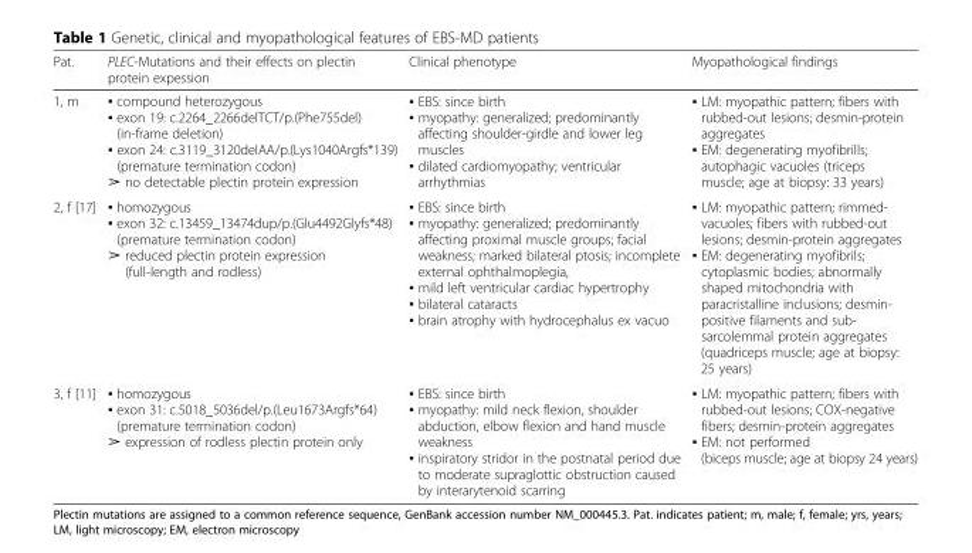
<table><thead><tr><td>Pat.</td><td>PLEC-Mutations and their effects on plectin protein expession</td><td>Clinical phenotype</td><td>Myopathological findings</td></tr></thead><tbody><tr><td>1, m</td><td>▪ compound heterozygous ▪ exon 19: c.2264_2266delTCT/p.(Phe755del) (in-frame deletion) ▪ exon 24: c.3119_3120delAA/p.(Lys1040Argfs*139) (premature termination codon) ➢ no detectable plectin protein expression</td><td>▪ EBS: since birth ▪ myopathy: generalized; predominantly affecting shoulder-girdle and lower leg muscles ▪ dilated cardiomyopathy; ventricular arrhythmias</td><td>▪ LM: myopathic pattern; fibers with rubbed-out lesions; desmin-protein aggregates ▪ EM: degenerating myofibrills; autophagic vacuoles (triceps muscle; age at biopsy: 33 years)</td></tr><tr><td>2, f [17]</td><td>▪ homozygous ▪ exon 32: c.13459_13474dup/p.(Glu4492Glyfs*48) (premature termination codon) ➢ reduced plectin protein expression (full-length and rodless)</td><td>▪ EBS: since birth ▪ myopathy: generalized; predominantly affecting proximal muscle groups; facial weakness; marked bilateral ptosis; incomplete external ophthalmoplegia, ▪ mild left ventricular cardiac hypertrophy ▪ bilateral cataracts ▪ brain atrophy with hydrocephalus ex vacuo</td><td>▪ LM: myopathic pattern; rimmed- vacuoles; fibers with rubbed-out lesions; desmin-protein aggregates ▪ EM: degenerating myofibrils; cytoplasmic bodies; abnormally shaped mitochondria with paracristalline inclusions; desmin- positive filaments and sub- sarcolemmal protein aggregates (quadriceps muscle; age at biopsy: 25 years)</td></tr><tr><td>3, f [11]</td><td>▪ homozygous ▪ exon 31: c.5018_5036del/p.(Leu1673Argfs*64) (premature termination codon) ➢ expression of rodless plectin protein only</td><td>▪ EBS: since birth ▪ myopathy: mild neck flexion, shoulder abduction, elbow flexion and hand muscle weakness ▪ inspiratory stridor in the postnatal period due to moderate supraglottic obstruction caused by interarytenoid scarring</td><td>▪ LM: myopathic pattern; fibers with rubbed-out lesions; COX-negative fibers; desmin-protein aggregates ▪ EM: not performed (biceps muscle; age at biopsy 24 years)</td></tr></tbody></table>